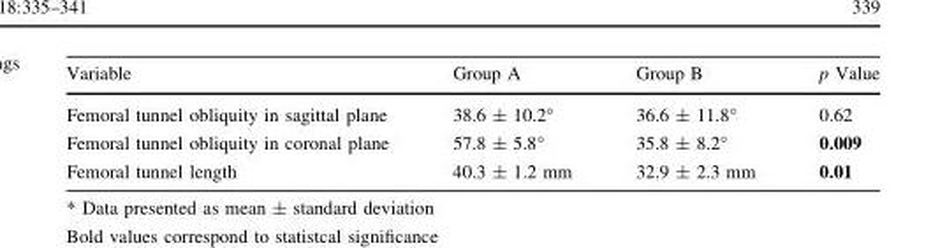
<table><thead><tr><td>Variable</td><td>Group A</td><td>Group B</td><td>p Value</td></tr></thead><tbody><tr><td>Femoral tunnel obliquity in sagittal plane</td><td>38.6 ± 10.2°</td><td>36.6 ± 11.8°</td><td>0.62</td></tr><tr><td>Femoral tunnel obliquity in coronal plane</td><td>57.8 ± 5.8°</td><td>35.8 ± 8.2°</td><td>0.009</td></tr><tr><td>Femoral tunnel length</td><td>40.3 ± 1.2 mm</td><td>32.9 ± 2.3 mm</td><td>0.01</td></tr></tbody></table>